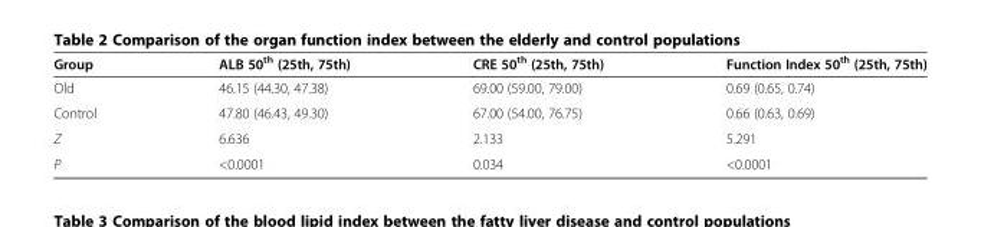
<table><thead><tr><td>Group</td><td>ALB 50<sup>th</sup> (25th, 75th)</td><td>CRE 50<sup>th</sup> (25th, 75th)</td><td>Function Index 50<sup>th</sup> (25th, 75th)</td></tr></thead><tbody><tr><td>Old</td><td>46.15 (44.30, 47.38)</td><td>69.00 (59.00, 79.00)</td><td>0.69 (0.65, 0.74)</td></tr><tr><td>Control</td><td>47.80 (46.43, 49.30)</td><td>67.00 (54.00, 76.75)</td><td>0.66 (0.63, 0.69)</td></tr><tr><td>Z</td><td>6.636</td><td>2.133</td><td>5.291</td></tr><tr><td>P</td><td>&lt;0.0001</td><td>0.034</td><td>&lt;0.0001</td></tr></tbody></table>